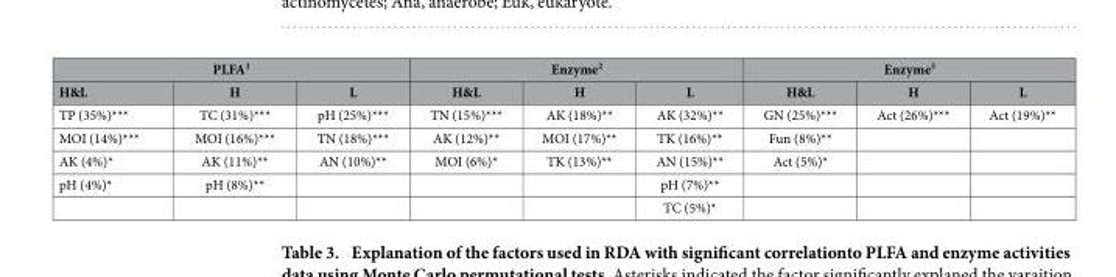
<table><thead><tr><td colspan="3">PLFA<sup>1</sup></td><td colspan="3">Enzyme<sup>2</sup></td><td colspan="3">Enzyme<sup>3</sup></td></tr><tr><td>H&amp;L</td><td>H</td><td>L</td><td>H&amp;L</td><td>H</td><td>L</td><td>H&amp;L</td><td>H</td><td>L</td></tr></thead><tbody><tr><td>TP (35%)***</td><td>TC (31%)***</td><td>pH (25%)***</td><td>TN (15%)***</td><td>AK (18%)**</td><td>AK (32%)**</td><td>GN (25%)***</td><td>Act (26%)***</td><td>Act (19%)**</td></tr><tr><td>MOI (14%)***</td><td>MOI (16%)***</td><td>TN (18%)***</td><td>AK (12%)**</td><td>MOI (17%)**</td><td>TK (16%)**</td><td>Fun (8%)**</td><td></td><td></td></tr><tr><td>AK (4%)*</td><td>AK (11%)**</td><td>AN (10%)**</td><td>MOI (6%)*</td><td>TK (13%)**</td><td>AN (15%)**</td><td>Act (5%)*</td><td></td><td></td></tr><tr><td rowspan="2">pH (4%)*</td><td>pH (8%)**</td><td></td><td></td><td></td><td>pH (7%)**</td><td></td><td></td><td></td></tr><tr><td></td><td></td><td></td><td></td><td>TC (5%)*</td><td></td><td></td><td></td></tr></tbody></table>